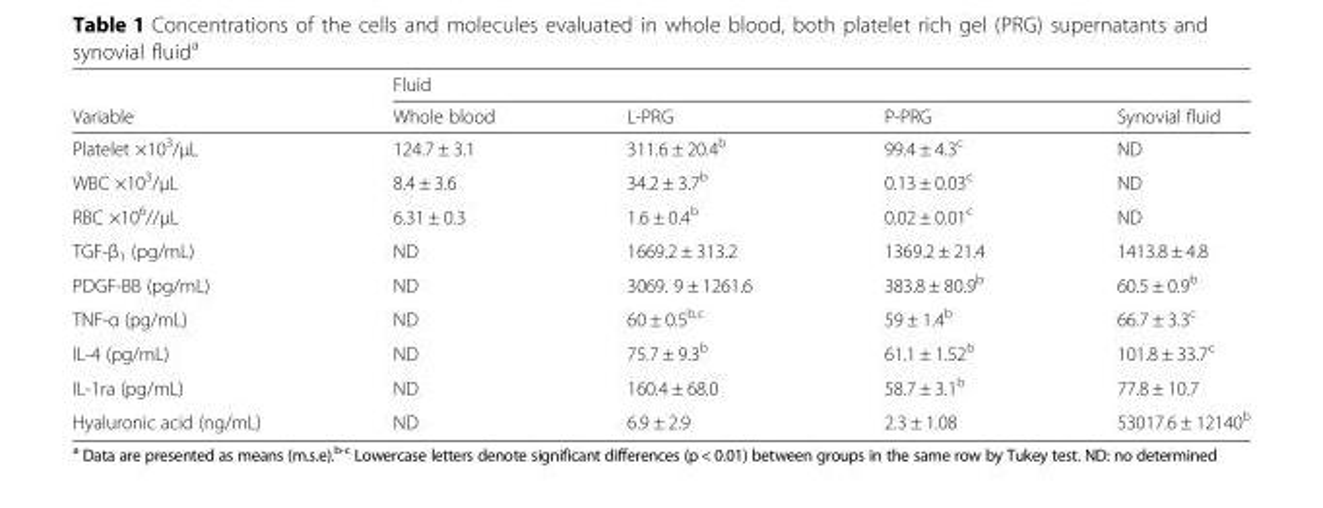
<table><thead><tr><td rowspan="2">Variable</td><td colspan="4">Fluid</td></tr><tr><td>Whole blood</td><td>L-PRG</td><td>P-PRG</td><td>Synovial fluid</td></tr></thead><tbody><tr><td>Platelet ×10<sup>3</sup>/μL</td><td>124.7 ± 3.1</td><td>311.6 ± 20.4<sup>b</sup></td><td>99.4 ± 4.3<sup>c</sup></td><td>ND</td></tr><tr><td>WBC ×10<sup>3</sup>/μL</td><td>8.4 ± 3.6</td><td>34.2 ± 3.7<sup>b</sup></td><td>0.13 ± 0.03<sup>c</sup></td><td>ND</td></tr><tr><td>RBC ×10<sup>6</sup>//μL</td><td>6.31 ± 0.3</td><td>1.6 ± 0.4<sup>b</sup></td><td>0.02 ± 0.01<sup>c</sup></td><td>ND</td></tr><tr><td>TGF-β<sub>1</sub> (pg/mL)</td><td>ND</td><td>1669.2 ± 313.2</td><td>1369.2 ± 21.4</td><td>1413.8 ± 4.8</td></tr><tr><td>PDGF-BB (pg/mL)</td><td>ND</td><td>3069. 9 ± 1261.6</td><td>383.8 ± 80.9<sup>b</sup></td><td>60.5 ± 0.9<sup>b</sup></td></tr><tr><td>TNF-α (pg/mL)</td><td>ND</td><td>60 ± 0.5<sup>b,c</sup></td><td>59 ± 1.4<sup>b</sup></td><td>66.7 ± 3.3<sup>c</sup></td></tr><tr><td>IL-4 (pg/mL)</td><td>ND</td><td>75.7 ± 9.3<sup>b</sup></td><td>61.1 ± 1.52<sup>b</sup></td><td>101.8 ± 33.7<sup>c</sup></td></tr><tr><td>IL-1ra (pg/mL)</td><td>ND</td><td>160.4 ± 68.0</td><td>58.7 ± 3.1<sup>b</sup></td><td>77.8 ± 10.7</td></tr><tr><td>Hyaluronic acid (ng/mL)</td><td>ND</td><td>6.9 ± 2.9</td><td>2.3 ± 1.08</td><td>53017.6 ± 12140<sup>b</sup></td></tr></tbody></table>